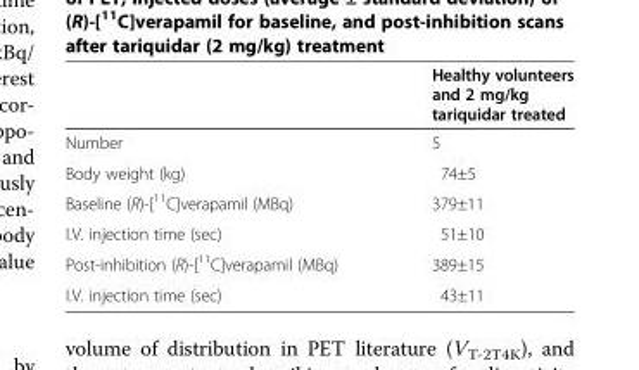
<table><thead><tr><td></td><td>Healthy volunteers and 2 mg/kg tariquidar treated</td></tr></thead><tbody><tr><td>Number</td><td>5</td></tr><tr><td>Body weight (kg)</td><td>74±5</td></tr><tr><td>Baseline (R)-[<sup>11</sup>C]verapamil (MBq)</td><td>379±11</td></tr><tr><td>I.V. injection time (sec)</td><td>51±10</td></tr><tr><td>Post-inhibition (R)-[<sup>11</sup>C]verapamil (MBq)</td><td>389±15</td></tr><tr><td>I.V. injection time (sec)</td><td>43±11</td></tr></tbody></table>